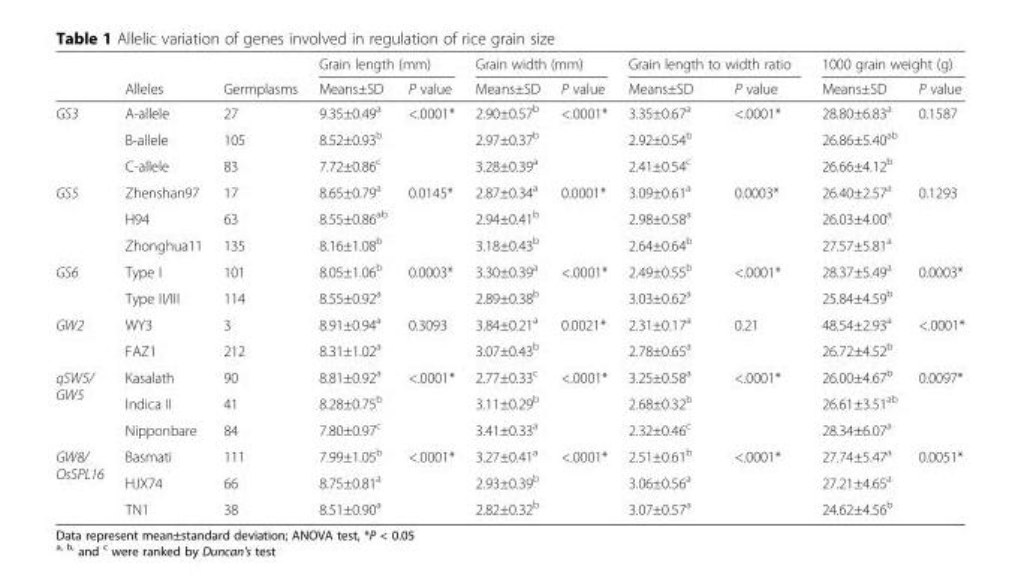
<table><thead><tr><td rowspan="2"></td><td rowspan="2">Alleles</td><td rowspan="2">Germplasms</td><td colspan="2">Grain length (mm)</td><td colspan="2">Grain width (mm)</td><td colspan="2">Grain length to width ratio</td><td colspan="2">1000 grain weight (g)</td></tr><tr><td>Means±SD</td><td>P value</td><td>Means±SD</td><td>P value</td><td>Means±SD</td><td>P value</td><td>Means±SD</td><td>P value</td></tr></thead><tbody><tr><td rowspan="3">GS3</td><td>A-allele</td><td>27</td><td>9.35±0.49<sup>a</sup></td><td>&lt;.0001*</td><td>2.90±0.57<sup>b</sup></td><td>&lt;.0001*</td><td>3.35±0.67<sup>a</sup></td><td>&lt;.0001*</td><td>28.80±6.83<sup>a</sup></td><td>0.1587</td></tr><tr><td>B-allele</td><td>105</td><td>8.52±0.93<sup>b</sup></td><td></td><td>2.97±0.37<sup>b</sup></td><td></td><td>2.92±0.54<sup>b</sup></td><td></td><td>26.86±5.40<sup>ab</sup></td><td></td></tr><tr><td>C-allele</td><td>83</td><td>7.72±0.86<sup>c</sup></td><td></td><td>3.28±0.39<sup>a</sup></td><td></td><td>2.41±0.54<sup>c</sup></td><td></td><td>26.66±4.12<sup>b</sup></td><td></td></tr><tr><td rowspan="3">GS5</td><td>Zhenshan97</td><td>17</td><td>8.65±0.79<sup>a</sup></td><td>0.0145*</td><td>2.87±0.34<sup>a</sup></td><td>0.0001*</td><td>3.09±0.61<sup>a</sup></td><td>0.0003*</td><td>26.40±2.57<sup>a</sup></td><td>0.1293</td></tr><tr><td>H94</td><td>63</td><td>8.55±0.86<sup>ab</sup></td><td></td><td>2.94±0.41<sup>b</sup></td><td></td><td>2.98±0.58<sup>a</sup></td><td></td><td>26.03±4.00<sup>a</sup></td><td></td></tr><tr><td>Zhonghua11</td><td>135</td><td>8.16±1.08<sup>b</sup></td><td></td><td>3.18±0.43<sup>b</sup></td><td></td><td>2.64±0.64<sup>b</sup></td><td></td><td>27.57±5.81<sup>a</sup></td><td></td></tr><tr><td rowspan="2">GS6</td><td>Type I</td><td>101</td><td>8.05±1.06<sup>b</sup></td><td>0.0003*</td><td>3.30±0.39<sup>a</sup></td><td>&lt;.0001*</td><td>2.49±0.55<sup>b</sup></td><td>&lt;.0001*</td><td>28.37±5.49<sup>a</sup></td><td>0.0003*</td></tr><tr><td>Type II/III</td><td>114</td><td>8.55±0.92<sup>a</sup></td><td></td><td>2.89±0.38<sup>b</sup></td><td></td><td>3.03±0.62<sup>a</sup></td><td></td><td>25.84±4.59<sup>b</sup></td><td></td></tr><tr><td rowspan="2">GW2</td><td>WY3</td><td>3</td><td>8.91±0.94<sup>a</sup></td><td>0.3093</td><td>3.84±0.21<sup>a</sup></td><td>0.0021*</td><td>2.31±0.17<sup>a</sup></td><td>0.21</td><td>48.54±2.93<sup>a</sup></td><td>&lt;.0001*</td></tr><tr><td>FAZ1</td><td>212</td><td>8.31±1.02<sup>a</sup></td><td></td><td>3.07±0.43<sup>b</sup></td><td></td><td>2.78±0.65<sup>a</sup></td><td></td><td>26.72±4.52<sup>b</sup></td><td></td></tr><tr><td rowspan="3">qSW5/ GW5</td><td>Kasalath</td><td>90</td><td>8.81±0.92<sup>a</sup></td><td>&lt;.0001*</td><td>2.77±0.33<sup>c</sup></td><td>&lt;.0001*</td><td>3.25±0.58<sup>a</sup></td><td>&lt;.0001*</td><td>26.00±4.67<sup>b</sup></td><td>0.0097*</td></tr><tr><td>Indica II</td><td>41</td><td>8.28±0.75<sup>b</sup></td><td></td><td>3.11±0.29<sup>b</sup></td><td></td><td>2.68±0.32<sup>b</sup></td><td></td><td>26.61±3.51<sup>ab</sup></td><td></td></tr><tr><td>Nipponbare</td><td>84</td><td>7.80±0.97<sup>c</sup></td><td></td><td>3.41±0.33<sup>a</sup></td><td></td><td>2.32±0.46<sup>c</sup></td><td></td><td>28.34±6.07<sup>a</sup></td><td></td></tr><tr><td rowspan="3">GW8/ OsSPL16</td><td>Basmati</td><td>111</td><td>7.99±1.05<sup>b</sup></td><td>&lt;.0001*</td><td>3.27±0.41<sup>a</sup></td><td>&lt;.0001*</td><td>2.51±0.61<sup>b</sup></td><td>&lt;.0001*</td><td>27.74±5.47<sup>a</sup></td><td>0.0051*</td></tr><tr><td>HJX74</td><td>66</td><td>8.75±0.81<sup>a</sup></td><td></td><td>2.93±0.39<sup>b</sup></td><td></td><td>3.06±0.56<sup>a</sup></td><td></td><td>27.21±4.65<sup>a</sup></td><td></td></tr><tr><td>TN1</td><td>38</td><td>8.51±0.90<sup>a</sup></td><td></td><td>2.82±0.32<sup>b</sup></td><td></td><td>3.07±0.57<sup>a</sup></td><td></td><td>24.62±4.56<sup>b</sup></td><td></td></tr></tbody></table>